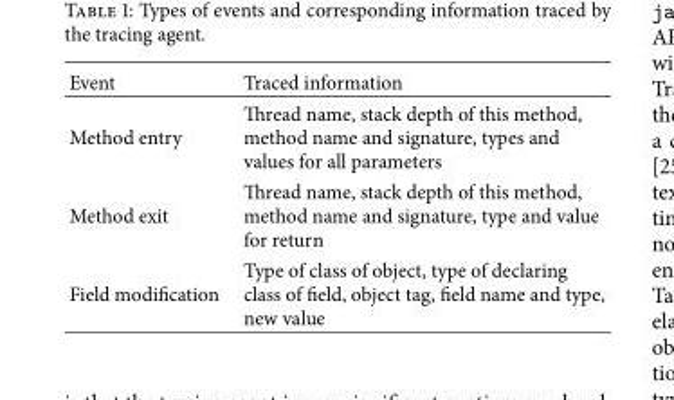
<table><thead><tr><td>Event</td><td>Traced information</td></tr></thead><tbody><tr><td>Method entry</td><td>Thread name, stack depth of this method, method name and signature, types and values for all parameters</td></tr><tr><td>Method exit</td><td>Thread name, stack depth of this method, method name and signature, type and value for return</td></tr><tr><td>Field modification</td><td>Type of class of object, type of declaring class of field, object tag, field name and type, new value</td></tr></tbody></table>